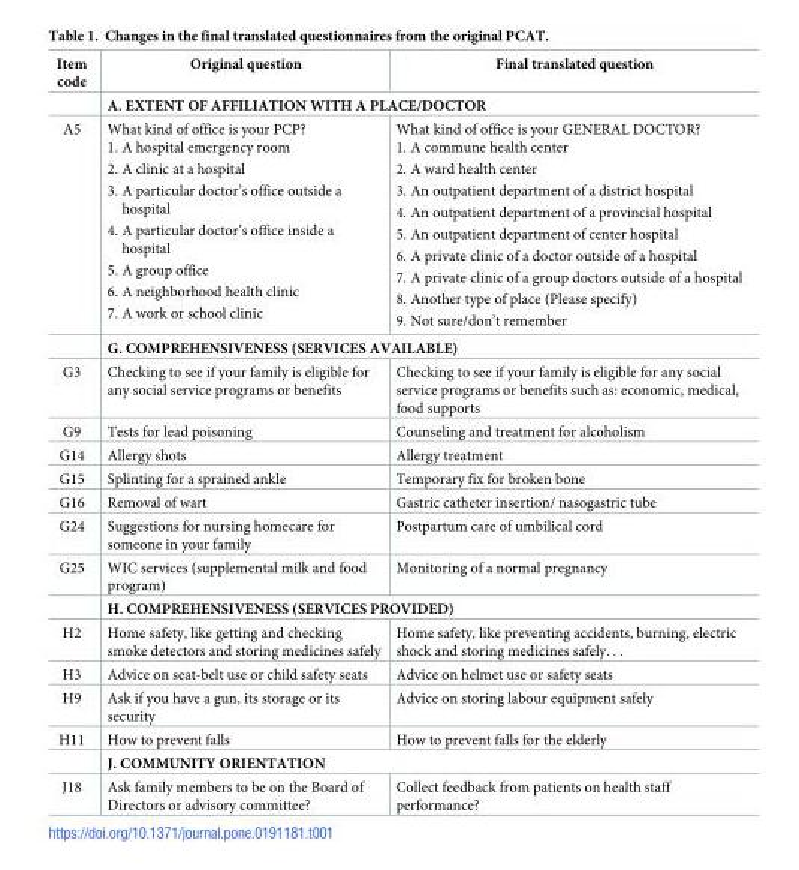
<table><thead><tr><td>Item code</td><td>Original question</td><td>Final translated question</td></tr></thead><tbody><tr><td></td><td colspan="2">A. EXTENT OF AFFILIATION WITH A PLACE/DOCTOR</td></tr><tr><td rowspan="2">A5</td><td>What kind of office is your PCP? 1. A hospital emergency room 2. A clinic at a hospital 3. A particular doctor’s office outside a hospital 4. A particular doctor’s office inside a hospital 5. A group office 6. A neighborhood health clinic 7. A work or school clinic</td><td>What kind of office is your GENERAL DOCTOR? 1. A commune health center 2. A ward health center 3. An outpatient department of a district hospital 4. An outpatient department of a provincial hospital 5. An outpatient department of center hospital 6. A private clinic of a doctor outside of a hospital 7. A private clinic of a group doctors outside of a hospital 8. Another type of place (Please specify) 9. Not sure/don’t remember</td></tr><tr><td colspan="2">G. COMPREHENSIVENESS (SERVICES AVAILABLE)</td></tr><tr><td>G3</td><td>Checking to see if your family is eligible for any social service programs or benefits</td><td>Checking to see if your family is eligible for any social service programs or benefits such as: economic, medical, food supports</td></tr><tr><td>G9</td><td>Tests for lead poisoning</td><td>Counseling and treatment for alcoholism</td></tr><tr><td>G14</td><td>Allergy shots</td><td>Allergy treatment</td></tr><tr><td>G15</td><td>Splinting for a sprained ankle</td><td>Temporary fix for broken bone</td></tr><tr><td>G16</td><td>Removal of wart</td><td>Gastric catheter insertion/ nasogastric tube</td></tr><tr><td>G24</td><td>Suggestions for nursing homecare for someone in your family</td><td>Postpartum care of umbilical cord</td></tr><tr><td rowspan="2">G25</td><td>WIC services (supplemental milk and food program)</td><td>Monitoring of a normal pregnancy</td></tr><tr><td colspan="2">H. COMPREHENSIVENESS (SERVICES PROVIDED)</td></tr><tr><td>H2</td><td>Home safety, like getting and checking smoke detectors and storing medicines safely</td><td>Home safety, like preventing accidents, burning, electric shock and storing medicines safely. . .</td></tr><tr><td>H3</td><td>Advice on seat-belt use or child safety seats</td><td>Advice on helmet use or safety seats</td></tr><tr><td>H9</td><td>Ask if you have a gun, its storage or its security</td><td>Advice on storing labour equipment safely</td></tr><tr><td rowspan="2">H11</td><td>How to prevent falls</td><td>How to prevent falls for the elderly</td></tr><tr><td colspan="2">J. COMMUNITY ORIENTATION</td></tr><tr><td>J18</td><td>Ask family members to be on the Board of Directors or advisory committee?</td><td>Collect feedback from patients on health staff performance?</td></tr></tbody></table>